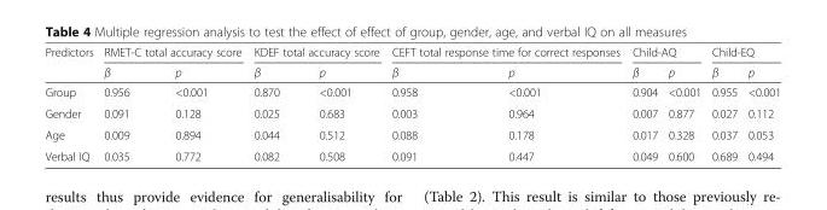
<table><thead><tr><td rowspan="2">Predictors</td><td colspan="2">RMET-C total accuracy score</td><td colspan="2">KDEF total accuracy score</td><td colspan="2">CEFT total response time for correct responses</td><td colspan="2">Child-AQ</td><td colspan="2">Child-EQ</td></tr><tr><td>β</td><td>p</td><td>β</td><td>p</td><td>β</td><td>p</td><td>β</td><td>p</td><td>β</td><td>p</td></tr></thead><tbody><tr><td>Group</td><td>0.956</td><td>&lt;0.001</td><td>0.870</td><td>&lt;0.001</td><td>0.958</td><td>&lt;0.001</td><td>0.904</td><td>&lt;0.001</td><td>0.955</td><td>&lt;0.001</td></tr><tr><td>Gender</td><td>0.091</td><td>0.128</td><td>0.025</td><td>0.683</td><td>0.003</td><td>0.964</td><td>0.007</td><td>0.877</td><td>0.027</td><td>0.112</td></tr><tr><td>Age</td><td>0.009</td><td>0.894</td><td>0.044</td><td>0.512</td><td>0.088</td><td>0.178</td><td>0.017</td><td>0.328</td><td>0.037</td><td>0.053</td></tr><tr><td>Verbal IQ</td><td>0.035</td><td>0.772</td><td>0.082</td><td>0.508</td><td>0.091</td><td>0.447</td><td>0.049</td><td>0.600</td><td>0.689</td><td>0.494</td></tr></tbody></table>